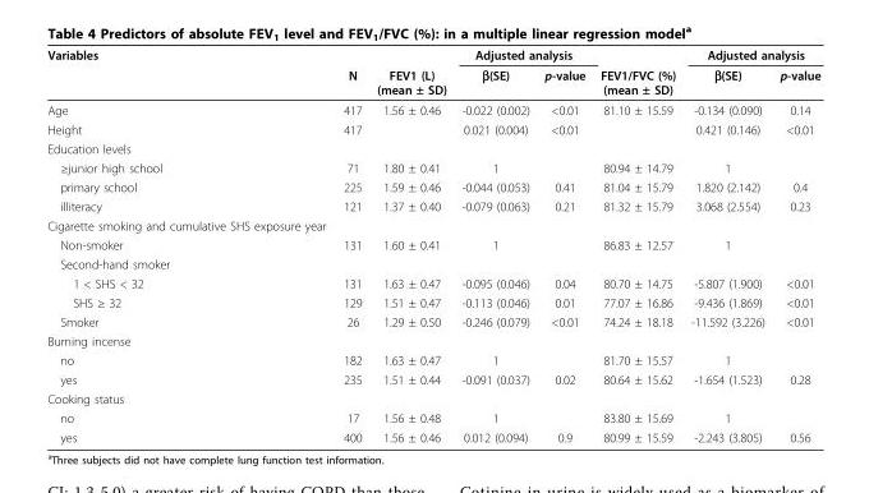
<table><thead><tr><td rowspan="2">Variables</td><td rowspan="2">N</td><td rowspan="2">FEV1 (L) (mean ± SD)</td><td colspan="2">Adjusted analysis</td><td rowspan="2">FEV1/FVC (%) (mean ± SD)</td><td colspan="2">Adjusted analysis</td></tr><tr><td>β(SE)</td><td>p-value</td><td>β(SE)</td><td>p-value</td></tr></thead><tbody><tr><td>Age</td><td>417</td><td>1.56 ± 0.46</td><td>-0.022 (0.002)</td><td>&lt;0.01</td><td>81.10 ± 15.59</td><td>-0.134 (0.090)</td><td>0.14</td></tr><tr><td>Height</td><td>417</td><td></td><td>0.021 (0.004)</td><td>&lt;0.01</td><td></td><td>0.421 (0.146)</td><td>&lt;0.01</td></tr><tr><td colspan="8">Education levels</td></tr><tr><td>≥junior high school</td><td>71</td><td>1.80 ± 0.41</td><td>1</td><td></td><td>80.94 ± 14.79</td><td>1</td><td></td></tr><tr><td>primary school</td><td>225</td><td>1.59 ± 0.46</td><td>-0.044 (0.053)</td><td>0.41</td><td>81.04 ± 15.79</td><td>1.820 (2.142)</td><td>0.4</td></tr><tr><td>illiteracy</td><td>121</td><td>1.37 ± 0.40</td><td>-0.079 (0.063)</td><td>0.21</td><td>81.32 ± 15.79</td><td>3.068 (2.554)</td><td>0.23</td></tr><tr><td colspan="8">Cigarette smoking and cumulative SHS exposure year</td></tr><tr><td>Non-smoker</td><td>131</td><td>1.60 ± 0.41</td><td>1</td><td></td><td>86.83 ± 12.57</td><td>1</td><td></td></tr><tr><td colspan="8">Second-hand smoker</td></tr><tr><td>1 &lt; SHS &lt; 32</td><td>131</td><td>1.63 ± 0.47</td><td>-0.095 (0.046)</td><td>0.04</td><td>80.70 ± 14.75</td><td>-5.807 (1.900)</td><td>&lt;0.01</td></tr><tr><td>SHS ≥ 32</td><td>129</td><td>1.51 ± 0.47</td><td>-0.113 (0.046)</td><td>0.01</td><td>77.07 ± 16.86</td><td>-9.436 (1.869)</td><td>&lt;0.01</td></tr><tr><td>Smoker</td><td>26</td><td>1.29 ± 0.50</td><td>-0.246 (0.079)</td><td>&lt;0.01</td><td>74.24 ± 18.18</td><td>-11.592 (3.226)</td><td>&lt;0.01</td></tr><tr><td colspan="8">Burning incense</td></tr><tr><td>no</td><td>182</td><td>1.63 ± 0.47</td><td>1</td><td></td><td>81.70 ± 15.57</td><td>1</td><td></td></tr><tr><td>yes</td><td>235</td><td>1.51 ± 0.44</td><td>-0.091 (0.037)</td><td>0.02</td><td>80.64 ± 15.62</td><td>-1.654 (1.523)</td><td>0.28</td></tr><tr><td colspan="8">Cooking status</td></tr><tr><td>no</td><td>17</td><td>1.56 ± 0.48</td><td>1</td><td></td><td>83.80 ± 15.69</td><td>1</td><td></td></tr><tr><td>yes</td><td>400</td><td>1.56 ± 0.46</td><td>0.012 (0.094)</td><td>0.9</td><td>80.99 ± 15.59</td><td>-2.243 (3.805)</td><td>0.56</td></tr></tbody></table>